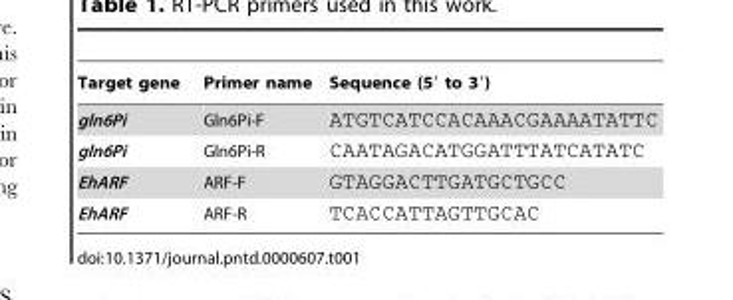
<table><thead><tr><td>Target gene</td><td>Primer name</td><td>Sequence (5′ to 3′)</td></tr></thead><tbody><tr><td>gln6Pi</td><td>Gln6Pi-F</td><td>ATGTCATCCACAAACGAAAATATTC</td></tr><tr><td>gln6Pi</td><td>Gln6Pi-R</td><td>CAATAGACATGGATTTATCATATC</td></tr><tr><td>EhARF</td><td>ARF-F</td><td>GTAGGACTTGATGCTGCC</td></tr><tr><td>EhARF</td><td>ARF-R</td><td>TCACCATTAGTTGCAC</td></tr></tbody></table>